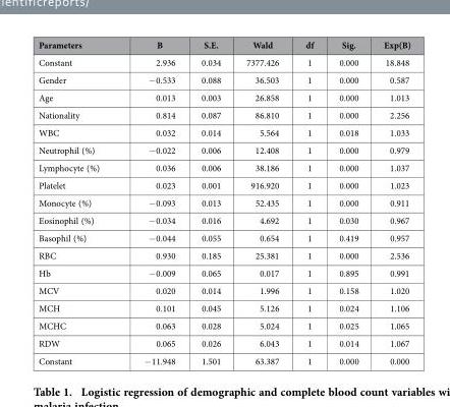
<table><thead><tr><td>Parameters</td><td>B</td><td>S.E.</td><td>Wald</td><td>df</td><td>Sig.</td><td>Exp(B)</td></tr></thead><tbody><tr><td>Constant</td><td>2.936</td><td>0.034</td><td>7377.426</td><td>1</td><td>0.000</td><td>18.848</td></tr><tr><td>Gender</td><td>− 0.533</td><td>0.088</td><td>36.503</td><td>1</td><td>0.000</td><td>0.587</td></tr><tr><td>Age</td><td>0.013</td><td>0.003</td><td>26.858</td><td>1</td><td>0.000</td><td>1.013</td></tr><tr><td>Nationality</td><td>0.814</td><td>0.087</td><td>86.810</td><td>1</td><td>0.000</td><td>2.256</td></tr><tr><td>WBC</td><td>0.032</td><td>0.014</td><td>5.564</td><td>1</td><td>0.018</td><td>1.033</td></tr><tr><td>Neutrophil (%)</td><td>− 0.022</td><td>0.006</td><td>12.408</td><td>1</td><td>0.000</td><td>0.979</td></tr><tr><td>Lymphocyte (%)</td><td>0.036</td><td>0.006</td><td>38.186</td><td>1</td><td>0.000</td><td>1.037</td></tr><tr><td>Platelet</td><td>0.023</td><td>0.001</td><td>916.920</td><td>1</td><td>0.000</td><td>1.023</td></tr><tr><td>Monocyte (%)</td><td>− 0.093</td><td>0.013</td><td>52.435</td><td>1</td><td>0.000</td><td>0.911</td></tr><tr><td>Eosinophil (%)</td><td>− 0.034</td><td>0.016</td><td>4.692</td><td>1</td><td>0.030</td><td>0.967</td></tr><tr><td>Basophil (%)</td><td>− 0.044</td><td>0.055</td><td>0.654</td><td>1</td><td>0.419</td><td>0.957</td></tr><tr><td>RBC</td><td>0.930</td><td>0.185</td><td>25.381</td><td>1</td><td>0.000</td><td>2.536</td></tr><tr><td>Hb</td><td>− 0.009</td><td>0.065</td><td>0.017</td><td>1</td><td>0.895</td><td>0.991</td></tr><tr><td>MCV</td><td>0.020</td><td>0.014</td><td>1.996</td><td>1</td><td>0.158</td><td>1.020</td></tr><tr><td>MCH</td><td>0.101</td><td>0.045</td><td>5.126</td><td>1</td><td>0.024</td><td>1.106</td></tr><tr><td>MCHC</td><td>0.063</td><td>0.028</td><td>5.024</td><td>1</td><td>0.025</td><td>1.065</td></tr><tr><td>RDW</td><td>0.065</td><td>0.026</td><td>6.043</td><td>1</td><td>0.014</td><td>1.067</td></tr><tr><td>Constant</td><td>− 11.948</td><td>1.501</td><td>63.387</td><td>1</td><td>0.000</td><td>0.000</td></tr></tbody></table>